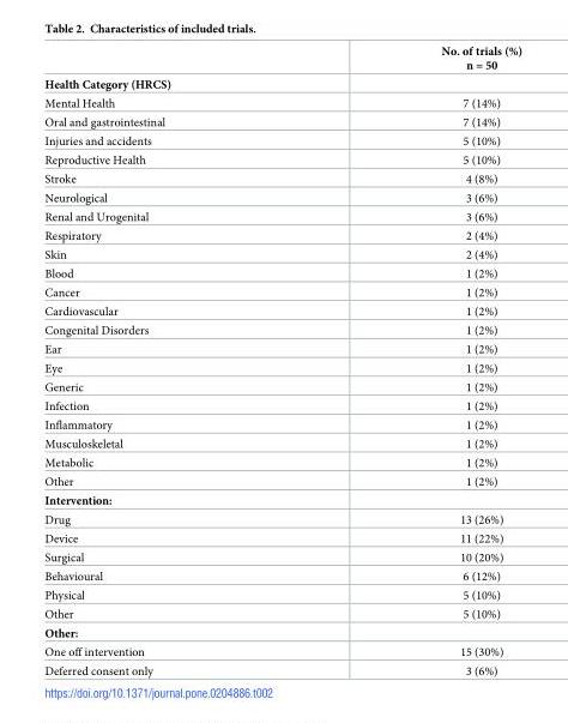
<table><thead><tr><td></td><td>No. of trials (%) n = 50</td></tr></thead><tbody><tr><td colspan="2">Health Category (HRCS)</td></tr><tr><td>Mental Health</td><td>7 (14%)</td></tr><tr><td>Oral and gastrointestinal</td><td>7 (14%)</td></tr><tr><td>Injuries and accidents</td><td>5 (10%)</td></tr><tr><td>Reproductive Health</td><td>5 (10%)</td></tr><tr><td>Stroke</td><td>4 (8%)</td></tr><tr><td>Neurological</td><td>3 (6%)</td></tr><tr><td>Renal and Urogenital</td><td>3 (6%)</td></tr><tr><td>Respiratory</td><td>2 (4%)</td></tr><tr><td>Skin</td><td>2 (4%)</td></tr><tr><td>Blood</td><td>1 (2%)</td></tr><tr><td>Cancer</td><td>1 (2%)</td></tr><tr><td>Cardiovascular</td><td>1 (2%)</td></tr><tr><td>Congenital Disorders</td><td>1 (2%)</td></tr><tr><td>Ear</td><td>1 (2%)</td></tr><tr><td>Eye</td><td>1 (2%)</td></tr><tr><td>Generic</td><td>1 (2%)</td></tr><tr><td>Infection</td><td>1 (2%)</td></tr><tr><td>Inflammatory</td><td>1 (2%)</td></tr><tr><td>Musculoskeletal</td><td>1 (2%)</td></tr><tr><td>Metabolic</td><td>1 (2%)</td></tr><tr><td>Other</td><td>1 (2%)</td></tr><tr><td colspan="2">Intervention:</td></tr><tr><td>Drug</td><td>13 (26%)</td></tr><tr><td>Device</td><td>11 (22%)</td></tr><tr><td>Surgical</td><td>10 (20%)</td></tr><tr><td>Behavioural</td><td>6 (12%)</td></tr><tr><td>Physical</td><td>5 (10%)</td></tr><tr><td>Other</td><td>5 (10%)</td></tr><tr><td colspan="2">Other:</td></tr><tr><td>One off intervention</td><td>15 (30%)</td></tr><tr><td>Deferred consent only</td><td>3 (6%)</td></tr></tbody></table>